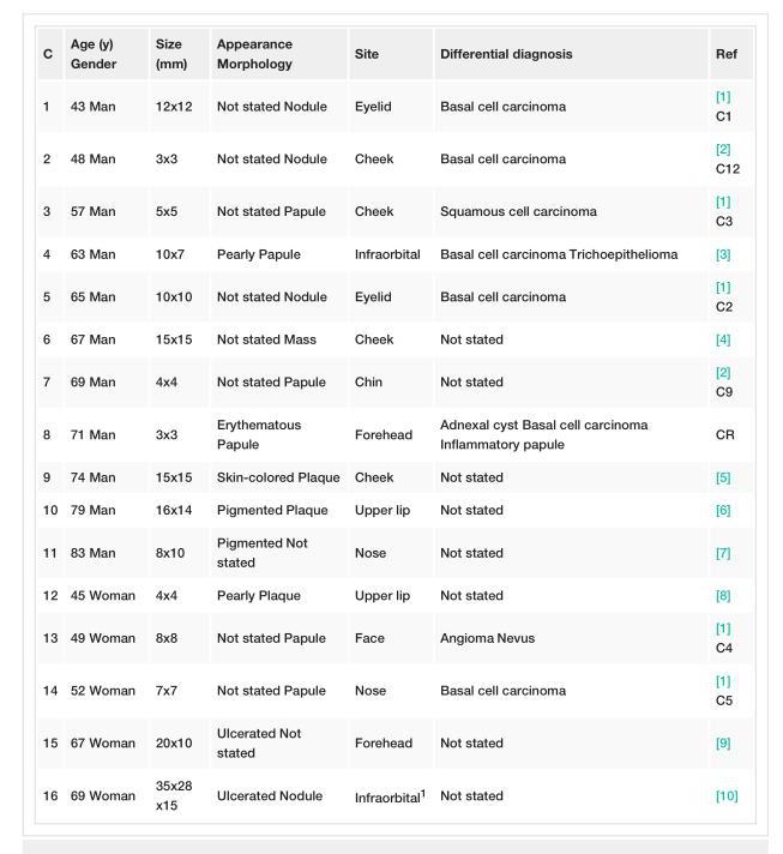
<table><tbody><tr><td>C</td><td>Age (y) Gender</td><td>Size (mm)</td><td>Appearance Morphology</td><td>Site</td><td>Differential diagnosis</td><td>Ref</td></tr><tr><td>1</td><td>43 Man</td><td>12x12</td><td>Not stated Nodule</td><td>Eyelid</td><td>Basal cell carcinoma</td><td>[1] C1</td></tr><tr><td>2</td><td>48 Man</td><td>3x3</td><td>Not stated Nodule</td><td>Cheek</td><td>Basal cell carcinoma</td><td>[2] C12</td></tr><tr><td>3</td><td>57 Man</td><td>5x5</td><td>Not stated Papule</td><td>Cheek</td><td>Squamous cell carcinoma</td><td>[1] C3</td></tr><tr><td>4</td><td>63 Man</td><td>10x7</td><td>Pearly Papule</td><td>Infraorbital</td><td>Basal cell carcinoma Trichoepithelioma</td><td>[3]</td></tr><tr><td>5</td><td>65 Man</td><td>10x10</td><td>Not stated Nodule</td><td>Eyelid</td><td>Basal cell carcinoma</td><td>[1] C2</td></tr><tr><td>6</td><td>67 Man</td><td>15x15</td><td>Not stated Mass</td><td>Cheek</td><td>Not stated</td><td>[4]</td></tr><tr><td>7</td><td>69 Man</td><td>4x4</td><td>Not stated Papule</td><td>Chin</td><td>Not stated</td><td>[2] C9</td></tr><tr><td>8</td><td>71 Man</td><td>3x3</td><td>Erythematous Papule</td><td>Forehead</td><td>Adnexal cyst Basal cell carcinoma Inflammatory papule</td><td>CR</td></tr><tr><td>9</td><td>74 Man</td><td>15x15</td><td>Skin-colored Plaque</td><td>Cheek</td><td>Not stated</td><td>[5]</td></tr><tr><td>10</td><td>79 Man</td><td>16x14</td><td>Pigmented Plaque</td><td>Upper lip</td><td>Not stated</td><td>[6]</td></tr><tr><td>11</td><td>83 Man</td><td>8x10</td><td>Pigmented Not stated</td><td>Nose</td><td>Not stated</td><td>[7]</td></tr><tr><td>12</td><td>45 Woman</td><td>4x4</td><td>Pearly Plaque</td><td>Upper lip</td><td>Not stated</td><td>[8]</td></tr><tr><td>13</td><td>49 Woman</td><td>8x8</td><td>Not stated Papule</td><td>Face</td><td>Angioma Nevus</td><td>[1] C4</td></tr><tr><td>14</td><td>52 Woman</td><td>7x7</td><td>Not stated Papule</td><td>Nose</td><td>Basal cell carcinoma</td><td>[1] C5</td></tr><tr><td>15</td><td>67 Woman</td><td>20x10</td><td>Ulcerated Not stated</td><td>Forehead</td><td>Not stated</td><td>[9]</td></tr><tr><td>16</td><td>69 Woman</td><td>35x28 x15</td><td>Ulcerated Nodule</td><td>Infraorbital<sup>1</sup></td><td>Not stated</td><td>[10]</td></tr></tbody></table>